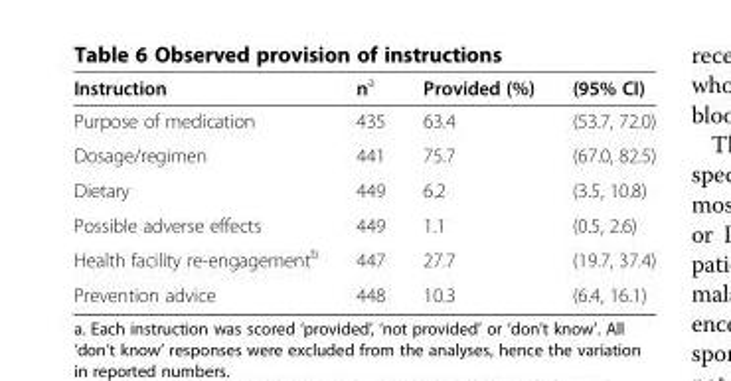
<table><thead><tr><td>Instruction</td><td>n<sup>a</sup></td><td>Provided (%)</td><td>(95% CI)</td></tr></thead><tbody><tr><td>Purpose of medication</td><td>435</td><td>63.4</td><td>(53.7, 72.0)</td></tr><tr><td>Dosage/regimen</td><td>441</td><td>75.7</td><td>(67.0, 82.5)</td></tr><tr><td>Dietary</td><td>449</td><td>6.2</td><td>(3.5, 10.8)</td></tr><tr><td>Possible adverse effects</td><td>449</td><td>1.1</td><td>(0.5, 2.6)</td></tr><tr><td>Health facility re-engagement<sup>b</sup></td><td>447</td><td>27.7</td><td>(19.7, 37.4)</td></tr><tr><td>Prevention advice</td><td>448</td><td>10.3</td><td>(6.4, 16.1)</td></tr></tbody></table>